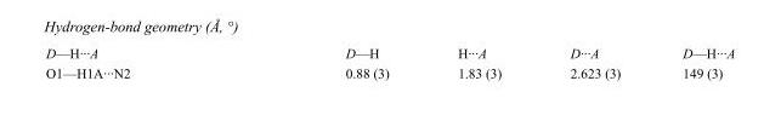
<table><tbody><tr><td>D—H···A</td><td>D—H</td><td>H···A</td><td>D···A</td><td>D—H···A</td></tr><tr><td>O1—H1A···N2</td><td>0.88 (3)</td><td>1.83 (3)</td><td>2.623 (3)</td><td>149 (3)</td></tr></tbody></table>